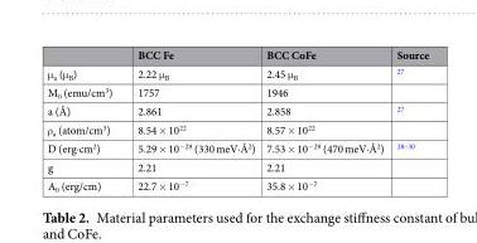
<table><thead><tr><td></td><td>BCC Fe</td><td>BCC CoFe</td><td>Source</td></tr></thead><tbody><tr><td>μ<sub>a</sub> (μ<sub>B</sub>)</td><td>2.22 μ<sub>B</sub></td><td>2.45 μ<sub>B</sub></td><td><sup>27</sup></td></tr><tr><td>M<sub>0</sub> (emu/cm<sup>3</sup>)</td><td>1757</td><td>1946</td><td></td></tr><tr><td>a (Å)</td><td>2.861</td><td>2.858</td><td><sup>27</sup></td></tr><tr><td>ρ<sub>a</sub> (atom/cm<sup>3</sup>)</td><td>8.54 × 10<sup>22</sup></td><td>8.57 × 10<sup>22</sup></td><td></td></tr><tr><td>D (erg·cm<sup>2</sup>)</td><td>5.29 × 10<sup>−29</sup> (330 meV·Å<sup>2</sup>)</td><td>7.53 × 10<sup>−29</sup> (470 meV·Å<sup>2</sup>)</td><td><sup>28–30</sup></td></tr><tr><td>g</td><td>2.21</td><td>2.21</td><td></td></tr><tr><td>A<sub>0</sub> (erg/cm)</td><td>22.7 × 10<sup>−7</sup></td><td>35.8 × 10<sup>−7</sup></td><td></td></tr></tbody></table>